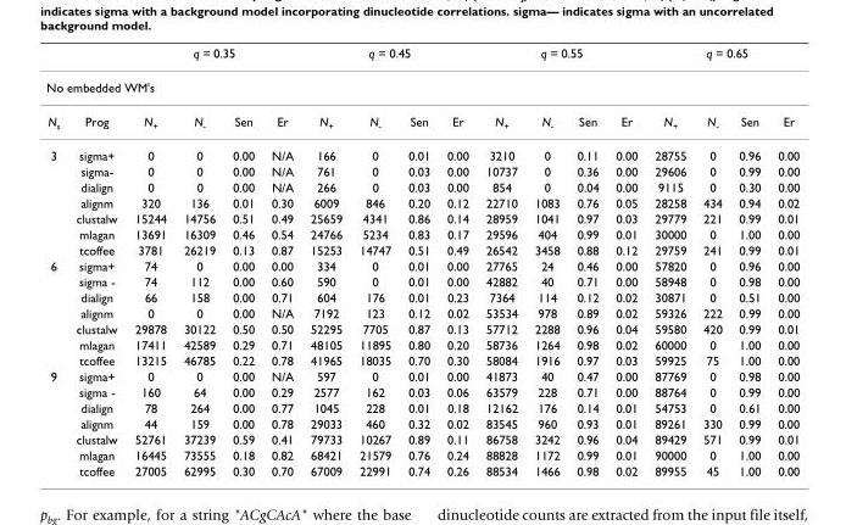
<table><thead><tr><td></td><td></td><td colspan="4">q = 0.35</td><td colspan="4">q = 0.45</td><td colspan="4">q = 0.55</td><td colspan="4">q = 0.65</td></tr><tr><td colspan="18">No embedded WM&#x27;s</td></tr><tr><td>N<sub>s</sub></td><td>Prog</td><td>N<sub>+</sub></td><td>N<sub>-</sub></td><td>Sen</td><td>Er</td><td>N<sub>+</sub></td><td>N<sub>-</sub></td><td>Sen</td><td>Er</td><td>N<sub>+</sub></td><td>N<sub>-</sub></td><td>Sen</td><td>Er</td><td>N<sub>+</sub></td><td>N<sub>-</sub></td><td>Sen</td><td>Er</td></tr></thead><tbody><tr><td rowspan="7">3</td><td>sigma+</td><td>0</td><td>0</td><td>0.00</td><td>N/A</td><td>166</td><td>0</td><td>0.01</td><td>0.00</td><td>3210</td><td>0</td><td>0.11</td><td>0.00</td><td>28755</td><td>0</td><td>0.96</td><td>0.00</td></tr><tr><td>sigma-</td><td>0</td><td>0</td><td>0.00</td><td>N/A</td><td>761</td><td>0</td><td>0.03</td><td>0.00</td><td>10737</td><td>0</td><td>0.36</td><td>0.00</td><td>29606</td><td>0</td><td>0.99</td><td>0.00</td></tr><tr><td>dialign</td><td>0</td><td>0</td><td>0.00</td><td>N/A</td><td>266</td><td>0</td><td>0.03</td><td>0.00</td><td>854</td><td>0</td><td>0.04</td><td>0.00</td><td>9115</td><td>0</td><td>0.30</td><td>0.00</td></tr><tr><td>alignm</td><td>320</td><td>136</td><td>0.01</td><td>0.30</td><td>6009</td><td>846</td><td>0.20</td><td>0.12</td><td>22710</td><td>1083</td><td>0.76</td><td>0.05</td><td>28258</td><td>434</td><td>0.94</td><td>0.02</td></tr><tr><td>clustalw</td><td>15244</td><td>14756</td><td>0.51</td><td>0.49</td><td>25659</td><td>4341</td><td>0.86</td><td>0.14</td><td>28959</td><td>1041</td><td>0.97</td><td>0.03</td><td>29779</td><td>221</td><td>0.99</td><td>0.01</td></tr><tr><td>mlagan</td><td>13691</td><td>16309</td><td>0.46</td><td>0.54</td><td>24766</td><td>5234</td><td>0.83</td><td>0.17</td><td>29596</td><td>404</td><td>0.99</td><td>0.01</td><td>30000</td><td>0</td><td>1.00</td><td>0.00</td></tr><tr><td>tcoffee</td><td>3781</td><td>26219</td><td>0.13</td><td>0.87</td><td>15253</td><td>14747</td><td>0.51</td><td>0.49</td><td>26542</td><td>3458</td><td>0.88</td><td>0.12</td><td>29759</td><td>241</td><td>0.99</td><td>0.01</td></tr><tr><td rowspan="7">6</td><td>sigma+</td><td>74</td><td>0</td><td>0.00</td><td>0.00</td><td>334</td><td>0</td><td>0.01</td><td>0.00</td><td>27765</td><td>24</td><td>0.46</td><td>0.00</td><td>57820</td><td>0</td><td>0.96</td><td>0.00</td></tr><tr><td>sigma -</td><td>74</td><td>112</td><td>0.00</td><td>0.60</td><td>590</td><td>0</td><td>0.01</td><td>0.00</td><td>42882</td><td>40</td><td>0.71</td><td>0.00</td><td>58948</td><td>0</td><td>0.98</td><td>0.00</td></tr><tr><td>dialign</td><td>66</td><td>158</td><td>0.00</td><td>0.71</td><td>604</td><td>176</td><td>0.01</td><td>0.23</td><td>7364</td><td>114</td><td>0.12</td><td>0.02</td><td>30871</td><td>0</td><td>0.51</td><td>0.00</td></tr><tr><td>alignm</td><td>0</td><td>0</td><td>0.00</td><td>N/A</td><td>7192</td><td>123</td><td>0.12</td><td>0.02</td><td>53534</td><td>978</td><td>0.89</td><td>0.02</td><td>59326</td><td>222</td><td>0.99</td><td>0.00</td></tr><tr><td>clustalw</td><td>29878</td><td>30122</td><td>0.50</td><td>0.50</td><td>52295</td><td>7705</td><td>0.87</td><td>0.13</td><td>57712</td><td>2288</td><td>0.96</td><td>0.04</td><td>59580</td><td>420</td><td>0.99</td><td>0.01</td></tr><tr><td>mlagan</td><td>17411</td><td>42589</td><td>0.29</td><td>0.71</td><td>48105</td><td>11895</td><td>0.80</td><td>0.20</td><td>58736</td><td>1264</td><td>0.98</td><td>0.02</td><td>60000</td><td>0</td><td>1.00</td><td>0.00</td></tr><tr><td>tcoffee</td><td>13215</td><td>46785</td><td>0.22</td><td>0.78</td><td>41965</td><td>18035</td><td>0.70</td><td>0.30</td><td>58084</td><td>1916</td><td>0.97</td><td>0.03</td><td>59925</td><td>75</td><td>1.00</td><td>0.00</td></tr><tr><td rowspan="7">9</td><td>sigma+</td><td>0</td><td>0</td><td>0.00</td><td>N/A</td><td>597</td><td>0</td><td>0.01</td><td>0.00</td><td>41873</td><td>40</td><td>0.47</td><td>0.00</td><td>87769</td><td>0</td><td>0.98</td><td>0.00</td></tr><tr><td>sigma -</td><td>160</td><td>64</td><td>0.00</td><td>0.29</td><td>2577</td><td>162</td><td>0.03</td><td>0.06</td><td>63579</td><td>228</td><td>0.71</td><td>0.00</td><td>88764</td><td>0</td><td>0.99</td><td>0.00</td></tr><tr><td>dialign</td><td>78</td><td>264</td><td>0.00</td><td>0.77</td><td>1045</td><td>228</td><td>0.01</td><td>0.18</td><td>12162</td><td>176</td><td>0.14</td><td>0.01</td><td>54753</td><td>0</td><td>0.61</td><td>0.00</td></tr><tr><td>alignm</td><td>44</td><td>159</td><td>0.00</td><td>0.78</td><td>29033</td><td>460</td><td>0.32</td><td>0.02</td><td>83545</td><td>960</td><td>0.93</td><td>0.01</td><td>89261</td><td>330</td><td>0.99</td><td>0.00</td></tr><tr><td>clustalw</td><td>52761</td><td>37239</td><td>0.59</td><td>0.41</td><td>79733</td><td>10267</td><td>0.89</td><td>0.11</td><td>86758</td><td>3242</td><td>0.96</td><td>0.04</td><td>89429</td><td>571</td><td>0.99</td><td>0.01</td></tr><tr><td>mlagan</td><td>16445</td><td>73555</td><td>0.18</td><td>0.82</td><td>68421</td><td>21579</td><td>0.76</td><td>0.24</td><td>88828</td><td>1172</td><td>0.99</td><td>0.01</td><td>90000</td><td>0</td><td>1.00</td><td>0.00</td></tr><tr><td>tcoffee</td><td>27005</td><td>62995</td><td>0.30</td><td>0.70</td><td>67009</td><td>22991</td><td>0.74</td><td>0.26</td><td>88534</td><td>1466</td><td>0.98</td><td>0.02</td><td>89955</td><td>45</td><td>1.00</td><td>0.00</td></tr></tbody></table>